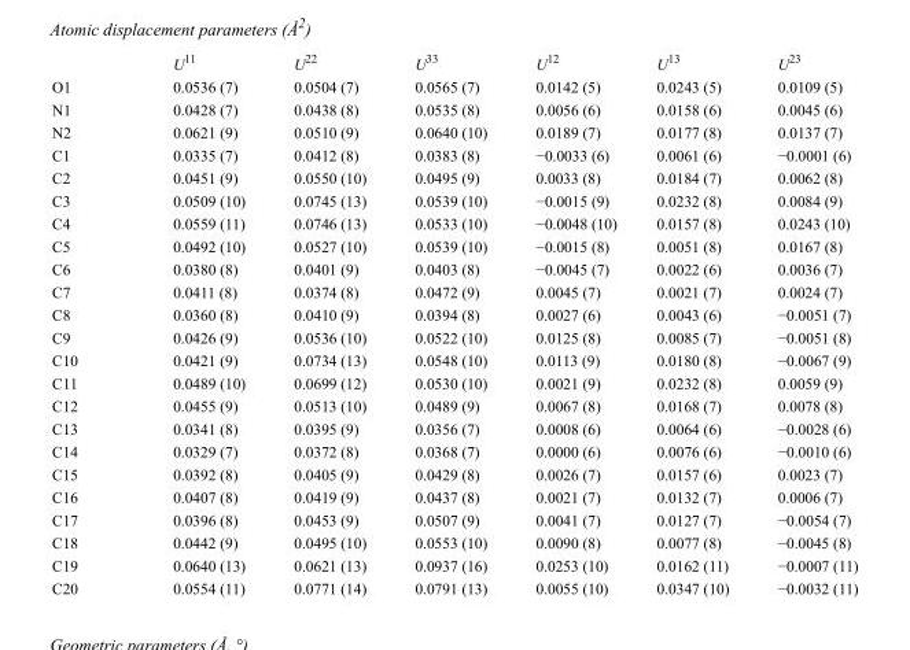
<table><thead><tr><td></td><td>U<sup>11</sup></td><td>U<sup>22</sup></td><td>U<sup>33</sup></td><td>U<sup>12</sup></td><td>U<sup>13</sup></td><td>U<sup>23</sup></td></tr></thead><tbody><tr><td>O1</td><td>0.0536 (7)</td><td>0.0504 (7)</td><td>0.0565 (7)</td><td>0.0142 (5)</td><td>0.0243 (5)</td><td>0.0109 (5)</td></tr><tr><td>N1</td><td>0.0428 (7)</td><td>0.0438 (8)</td><td>0.0535 (8)</td><td>0.0056 (6)</td><td>0.0158 (6)</td><td>0.0045 (6)</td></tr><tr><td>N2</td><td>0.0621 (9)</td><td>0.0510 (9)</td><td>0.0640 (10)</td><td>0.0189 (7)</td><td>0.0177 (8)</td><td>0.0137 (7)</td></tr><tr><td>C1</td><td>0.0335 (7)</td><td>0.0412 (8)</td><td>0.0383 (8)</td><td>−0.0033 (6)</td><td>0.0061 (6)</td><td>−0.0001 (6)</td></tr><tr><td>C2</td><td>0.0451 (9)</td><td>0.0550 (10)</td><td>0.0495 (9)</td><td>0.0033 (8)</td><td>0.0184 (7)</td><td>0.0062 (8)</td></tr><tr><td>C3</td><td>0.0509 (10)</td><td>0.0745 (13)</td><td>0.0539 (10)</td><td>−0.0015 (9)</td><td>0.0232 (8)</td><td>0.0084 (9)</td></tr><tr><td>C4</td><td>0.0559 (11)</td><td>0.0746 (13)</td><td>0.0533 (10)</td><td>−0.0048 (10)</td><td>0.0157 (8)</td><td>0.0243 (10)</td></tr><tr><td>C5</td><td>0.0492 (10)</td><td>0.0527 (10)</td><td>0.0539 (10)</td><td>−0.0015 (8)</td><td>0.0051 (8)</td><td>0.0167 (8)</td></tr><tr><td>C6</td><td>0.0380 (8)</td><td>0.0401 (9)</td><td>0.0403 (8)</td><td>−0.0045 (7)</td><td>0.0022 (6)</td><td>0.0036 (7)</td></tr><tr><td>C7</td><td>0.0411 (8)</td><td>0.0374 (8)</td><td>0.0472 (9)</td><td>0.0045 (7)</td><td>0.0021 (7)</td><td>0.0024 (7)</td></tr><tr><td>C8</td><td>0.0360 (8)</td><td>0.0410 (9)</td><td>0.0394 (8)</td><td>0.0027 (6)</td><td>0.0043 (6)</td><td>−0.0051 (7)</td></tr><tr><td>C9</td><td>0.0426 (9)</td><td>0.0536 (10)</td><td>0.0522 (10)</td><td>0.0125 (8)</td><td>0.0085 (7)</td><td>−0.0051 (8)</td></tr><tr><td>C10</td><td>0.0421 (9)</td><td>0.0734 (13)</td><td>0.0548 (10)</td><td>0.0113 (9)</td><td>0.0180 (8)</td><td>−0.0067 (9)</td></tr><tr><td>C11</td><td>0.0489 (10)</td><td>0.0699 (12)</td><td>0.0530 (10)</td><td>0.0021 (9)</td><td>0.0232 (8)</td><td>0.0059 (9)</td></tr><tr><td>C12</td><td>0.0455 (9)</td><td>0.0513 (10)</td><td>0.0489 (9)</td><td>0.0067 (8)</td><td>0.0168 (7)</td><td>0.0078 (8)</td></tr><tr><td>C13</td><td>0.0341 (8)</td><td>0.0395 (9)</td><td>0.0356 (7)</td><td>0.0008 (6)</td><td>0.0064 (6)</td><td>−0.0028 (6)</td></tr><tr><td>C14</td><td>0.0329 (7)</td><td>0.0372 (8)</td><td>0.0368 (7)</td><td>0.0000 (6)</td><td>0.0076 (6)</td><td>−0.0010 (6)</td></tr><tr><td>C15</td><td>0.0392 (8)</td><td>0.0405 (9)</td><td>0.0429 (8)</td><td>0.0026 (7)</td><td>0.0157 (6)</td><td>0.0023 (7)</td></tr><tr><td>C16</td><td>0.0407 (8)</td><td>0.0419 (9)</td><td>0.0437 (8)</td><td>0.0021 (7)</td><td>0.0132 (7)</td><td>0.0006 (7)</td></tr><tr><td>C17</td><td>0.0396 (8)</td><td>0.0453 (9)</td><td>0.0507 (9)</td><td>0.0041 (7)</td><td>0.0127 (7)</td><td>−0.0054 (7)</td></tr><tr><td>C18</td><td>0.0442 (9)</td><td>0.0495 (10)</td><td>0.0553 (10)</td><td>0.0090 (8)</td><td>0.0077 (8)</td><td>−0.0045 (8)</td></tr><tr><td>C19</td><td>0.0640 (13)</td><td>0.0621 (13)</td><td>0.0937 (16)</td><td>0.0253 (10)</td><td>0.0162 (11)</td><td>−0.0007 (11)</td></tr><tr><td>C20</td><td>0.0554 (11)</td><td>0.0771 (14)</td><td>0.0791 (13)</td><td>0.0055 (10)</td><td>0.0347 (10)</td><td>−0.0032 (11)</td></tr></tbody></table>